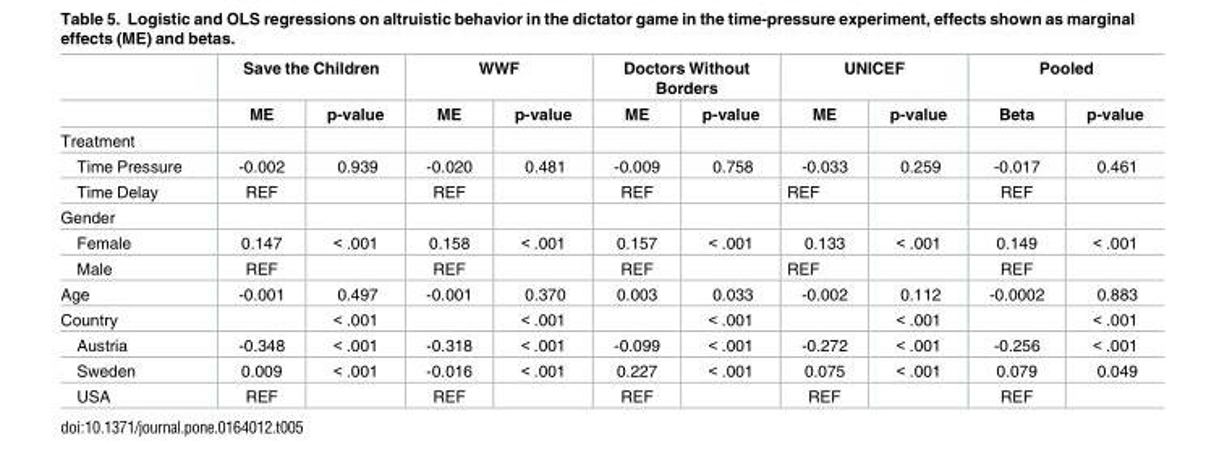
<table><thead><tr><td rowspan="2"></td><td colspan="2">Save the Children</td><td colspan="2">WWF</td><td colspan="2">Doctors Without Borders</td><td colspan="2">UNICEF</td><td colspan="2">Pooled</td></tr><tr><td>ME</td><td>p-value</td><td>ME</td><td>p-value</td><td>ME</td><td>p-value</td><td>ME</td><td>p-value</td><td>Beta</td><td>p-value</td></tr></thead><tbody><tr><td colspan="11">Treatment</td></tr><tr><td>Time Pressure</td><td>-0.002</td><td>0.939</td><td>-0.020</td><td>0.481</td><td>-0.009</td><td>0.758</td><td>-0.033</td><td>0.259</td><td>-0.017</td><td>0.461</td></tr><tr><td>Time Delay</td><td>REF</td><td></td><td>REF</td><td></td><td>REF</td><td></td><td>REF</td><td></td><td>REF</td><td></td></tr><tr><td colspan="11">Gender</td></tr><tr><td>Female</td><td>0.147</td><td>&lt; .001</td><td>0.158</td><td>&lt; .001</td><td>0.157</td><td>&lt; .001</td><td>0.133</td><td>&lt; .001</td><td>0.149</td><td>&lt; .001</td></tr><tr><td>Male</td><td>REF</td><td></td><td>REF</td><td></td><td>REF</td><td></td><td>REF</td><td></td><td>REF</td><td></td></tr><tr><td>Age</td><td>-0.001</td><td>0.497</td><td>-0.001</td><td>0.370</td><td>0.003</td><td>0.033</td><td>-0.002</td><td>0.112</td><td>-0.0002</td><td>0.883</td></tr><tr><td>Country</td><td></td><td>&lt; .001</td><td></td><td>&lt; .001</td><td></td><td>&lt; .001</td><td></td><td>&lt; .001</td><td></td><td>&lt; .001</td></tr><tr><td>Austria</td><td>-0.348</td><td>&lt; .001</td><td>-0.318</td><td>&lt; .001</td><td>-0.099</td><td>&lt; .001</td><td>-0.272</td><td>&lt; .001</td><td>-0.256</td><td>&lt; .001</td></tr><tr><td>Sweden</td><td>0.009</td><td>&lt; .001</td><td>-0.016</td><td>&lt; .001</td><td>0.227</td><td>&lt; .001</td><td>0.075</td><td>&lt; .001</td><td>0.079</td><td>0.049</td></tr><tr><td>USA</td><td>REF</td><td></td><td>REF</td><td></td><td>REF</td><td></td><td>REF</td><td></td><td>REF</td><td></td></tr></tbody></table>